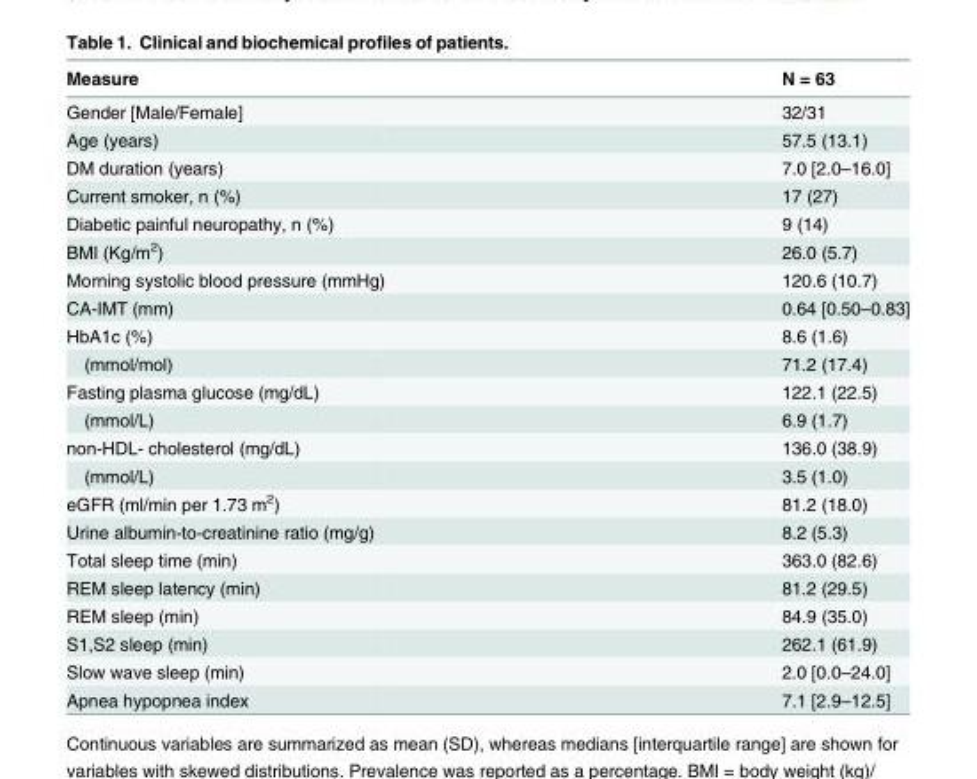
<table><thead><tr><td>Measure</td><td>N = 63</td></tr></thead><tbody><tr><td>Gender [Male/Female]</td><td>32/31</td></tr><tr><td>Age (years)</td><td>57.5 (13.1)</td></tr><tr><td>DM duration (years)</td><td>7.0 [2.0–16.0]</td></tr><tr><td>Current smoker, n (%)</td><td>17 (27)</td></tr><tr><td>Diabetic painful neuropathy, n (%)</td><td>9 (14)</td></tr><tr><td>BMI (Kg/m<sup>2</sup>)</td><td>26.0 (5.7)</td></tr><tr><td>Morning systolic blood pressure (mmHg)</td><td>120.6 (10.7)</td></tr><tr><td>CA-IMT (mm)</td><td>0.64 [0.50–0.83]</td></tr><tr><td>HbA1c (%)</td><td>8.6 (1.6)</td></tr><tr><td>(mmol/mol)</td><td>71.2 (17.4)</td></tr><tr><td>Fasting plasma glucose (mg/dL)</td><td>122.1 (22.5)</td></tr><tr><td>(mmol/L)</td><td>6.9 (1.7)</td></tr><tr><td>non-HDL- cholesterol (mg/dL)</td><td>136.0 (38.9)</td></tr><tr><td>(mmol/L)</td><td>3.5 (1.0)</td></tr><tr><td>eGFR (ml/min per 1.73 m<sup>2</sup>)</td><td>81.2 (18.0)</td></tr><tr><td>Urine albumin-to-creatinine ratio (mg/g)</td><td>8.2 (5.3)</td></tr><tr><td>Total sleep time (min)</td><td>363.0 (82.6)</td></tr><tr><td>REM sleep latency (min)</td><td>81.2 (29.5)</td></tr><tr><td>REM sleep (min)</td><td>84.9 (35.0)</td></tr><tr><td>S1,S2 sleep (min)</td><td>262.1 (61.9)</td></tr><tr><td>Slow wave sleep (min)</td><td>2.0 [0.0–24.0]</td></tr><tr><td>Apnea hypopnea index</td><td>7.1 [2.9–12.5]</td></tr></tbody></table>